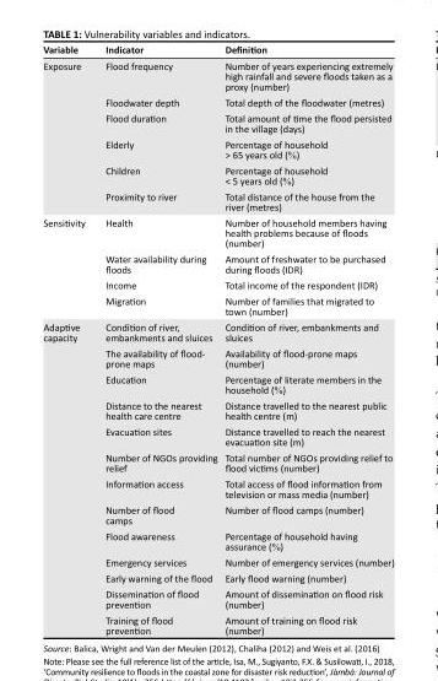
<table><thead><tr><td>Variable</td><td>Indicator</td><td>Definition</td></tr></thead><tbody><tr><td rowspan="6">Exposure</td><td>Flood frequency</td><td>Number of years experiencing extremely high rainfall and severe floods taken as a proxy (number)</td></tr><tr><td>Floodwater depth</td><td>Total depth of the floodwater (metres)</td></tr><tr><td>Flood duration</td><td>Total amount of time the flood persisted in the village (days)</td></tr><tr><td>Elderly</td><td>Percentage of household &gt; 65 years old (%)</td></tr><tr><td>Children</td><td>Percentage of household &lt; 5 years old (%)</td></tr><tr><td>Proximity to river</td><td>Total distance of the house from the river (metres)</td></tr><tr><td rowspan="4">Sensitivity</td><td>Health</td><td>Number of household members having health problems because of floods (number)</td></tr><tr><td>Water availability during floods</td><td>Amount of freshwater to be purchased during floods (IDR)</td></tr><tr><td>Income</td><td>Total income of the respondent (IDR)</td></tr><tr><td>Migration</td><td>Number of families that migrated to town (number)</td></tr><tr><td rowspan="13">Adaptive capacity</td><td>Condition of river, embankments and sluices</td><td>Condition of river, embankments and sluices</td></tr><tr><td>The availability of flood- prone maps</td><td>Availability of flood-prone maps (number)</td></tr><tr><td>Education</td><td>Percentage of literate members in the household (%)</td></tr><tr><td>Distance to the nearest health care centre</td><td>Distance travelled to the nearest public health centre (m)</td></tr><tr><td>Evacuation sites</td><td>Distance travelled to reach the nearest evacuation site (m)</td></tr><tr><td>Number of NGOs providing relief</td><td>Total number of NGOs providing relief to flood victims (number)</td></tr><tr><td>Information access</td><td>Total access of flood information from television or mass media (number)</td></tr><tr><td>Number of flood camps</td><td>Number of flood camps (number)</td></tr><tr><td>Flood awareness</td><td>Percentage of household having assurance (%)</td></tr><tr><td>Emergency services</td><td>Number of emergency services (number)</td></tr><tr><td>Early warning of the flood</td><td>Early flood warning (number)</td></tr><tr><td>Dissemination of flood prevention</td><td>Amount of dissemination on flood risk (number)</td></tr><tr><td>Training of flood prevention</td><td>Amount of training on flood risk (number)</td></tr></tbody></table>